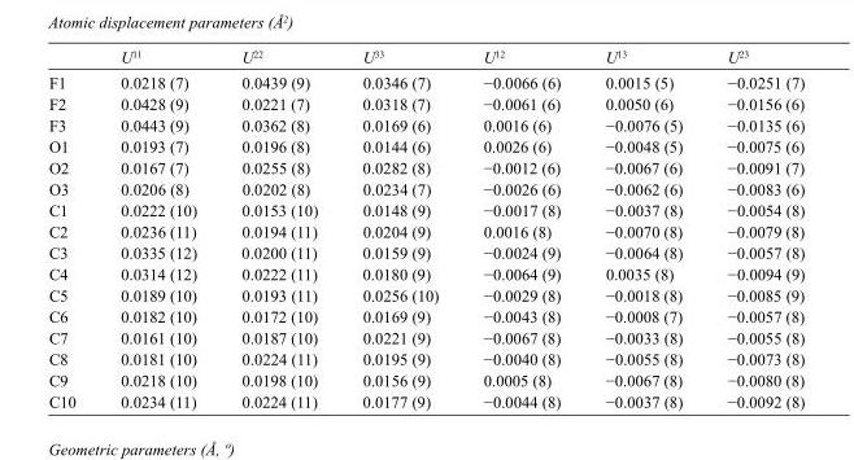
<table><thead><tr><td></td><td>U<sup>11</sup></td><td>U<sup>22</sup></td><td>U<sup>33</sup></td><td>U<sup>12</sup></td><td>U<sup>13</sup></td><td>U<sup>23</sup></td></tr></thead><tbody><tr><td>F1</td><td>0.0218 (7)</td><td>0.0439 (9)</td><td>0.0346 (7)</td><td>−0.0066 (6)</td><td>0.0015 (5)</td><td>−0.0251 (7)</td></tr><tr><td>F2</td><td>0.0428 (9)</td><td>0.0221 (7)</td><td>0.0318 (7)</td><td>−0.0061 (6)</td><td>0.0050 (6)</td><td>−0.0156 (6)</td></tr><tr><td>F3</td><td>0.0443 (9)</td><td>0.0362 (8)</td><td>0.0169 (6)</td><td>0.0016 (6)</td><td>−0.0076 (5)</td><td>−0.0135 (6)</td></tr><tr><td>O1</td><td>0.0193 (7)</td><td>0.0196 (8)</td><td>0.0144 (6)</td><td>0.0026 (6)</td><td>−0.0048 (5)</td><td>−0.0075 (6)</td></tr><tr><td>O2</td><td>0.0167 (7)</td><td>0.0255 (8)</td><td>0.0282 (8)</td><td>−0.0012 (6)</td><td>−0.0067 (6)</td><td>−0.0091 (7)</td></tr><tr><td>O3</td><td>0.0206 (8)</td><td>0.0202 (8)</td><td>0.0234 (7)</td><td>−0.0026 (6)</td><td>−0.0062 (6)</td><td>−0.0083 (6)</td></tr><tr><td>C1</td><td>0.0222 (10)</td><td>0.0153 (10)</td><td>0.0148 (9)</td><td>−0.0017 (8)</td><td>−0.0037 (8)</td><td>−0.0054 (8)</td></tr><tr><td>C2</td><td>0.0236 (11)</td><td>0.0194 (11)</td><td>0.0204 (9)</td><td>0.0016 (8)</td><td>−0.0070 (8)</td><td>−0.0079 (8)</td></tr><tr><td>C3</td><td>0.0335 (12)</td><td>0.0200 (11)</td><td>0.0159 (9)</td><td>−0.0024 (9)</td><td>−0.0064 (8)</td><td>−0.0057 (8)</td></tr><tr><td>C4</td><td>0.0314 (12)</td><td>0.0222 (11)</td><td>0.0180 (9)</td><td>−0.0064 (9)</td><td>0.0035 (8)</td><td>−0.0094 (9)</td></tr><tr><td>C5</td><td>0.0189 (10)</td><td>0.0193 (11)</td><td>0.0256 (10)</td><td>−0.0029 (8)</td><td>−0.0018 (8)</td><td>−0.0085 (9)</td></tr><tr><td>C6</td><td>0.0182 (10)</td><td>0.0172 (10)</td><td>0.0169 (9)</td><td>−0.0043 (8)</td><td>−0.0008 (7)</td><td>−0.0057 (8)</td></tr><tr><td>C7</td><td>0.0161 (10)</td><td>0.0187 (10)</td><td>0.0221 (9)</td><td>−0.0067 (8)</td><td>−0.0033 (8)</td><td>−0.0055 (8)</td></tr><tr><td>C8</td><td>0.0181 (10)</td><td>0.0224 (11)</td><td>0.0195 (9)</td><td>−0.0040 (8)</td><td>−0.0055 (8)</td><td>−0.0073 (8)</td></tr><tr><td>C9</td><td>0.0218 (10)</td><td>0.0198 (10)</td><td>0.0156 (9)</td><td>0.0005 (8)</td><td>−0.0067 (8)</td><td>−0.0080 (8)</td></tr><tr><td>C10</td><td>0.0234 (11)</td><td>0.0224 (11)</td><td>0.0177 (9)</td><td>−0.0044 (8)</td><td>−0.0037 (8)</td><td>−0.0092 (8)</td></tr></tbody></table>